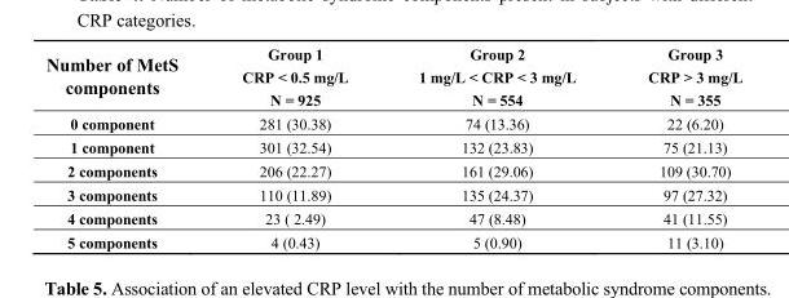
<table><thead><tr><td rowspan="3">Number of MetS components</td><td rowspan="3">Group 1 CRP &lt; 0.5 mg/L N = 925</td><td rowspan="3">Group 2 1 mg/L &lt; CRP &lt; 3 mg/L N = 554</td><td rowspan="3">Group 3 CRP &gt; 3 mg/L N = 355</td></tr><tr></tr><tr></tr></thead><tbody><tr><td>0 component</td><td>281 (30.38)</td><td>74 (13.36)</td><td>22 (6.20)</td></tr><tr><td>1 component</td><td>301 (32.54)</td><td>132 (23.83)</td><td>75 (21.13)</td></tr><tr><td>2 components</td><td>206 (22.27)</td><td>161 (29.06)</td><td>109 (30.70)</td></tr><tr><td>3 components</td><td>110 (11.89)</td><td>135 (24.37)</td><td>97 (27.32)</td></tr><tr><td>4 components</td><td>23 ( 2.49)</td><td>47 (8.48)</td><td>41 (11.55)</td></tr><tr><td>5 components</td><td>4 (0.43)</td><td>5 (0.90)</td><td>11 (3.10)</td></tr></tbody></table>